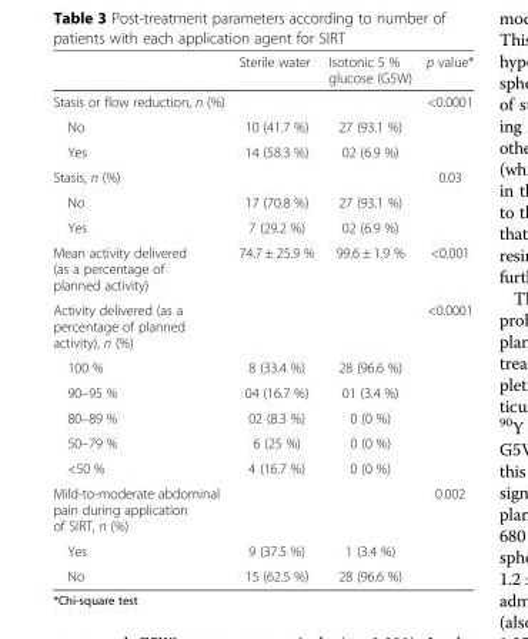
<table><thead><tr><td></td><td>Sterile water</td><td>Isotonic 5 % glucose (G5W)</td><td>p value*</td></tr></thead><tbody><tr><td colspan="3">Stasis or flow reduction, n (%)</td><td rowspan="3">&lt;0.0001</td></tr><tr><td>No</td><td>10 (41.7 %)</td><td>27 (93.1 %)</td></tr><tr><td>Yes</td><td>14 (58.3 %)</td><td>02 (6.9 %)</td></tr><tr><td colspan="3">Stasis, n (%)</td><td rowspan="3">0.03</td></tr><tr><td>No</td><td>17 (70.8 %)</td><td>27 (93.1 %)</td></tr><tr><td>Yes</td><td>7 (29.2 %)</td><td>02 (6.9 %)</td></tr><tr><td>Mean activity delivered (as a percentage of planned activity)</td><td>74.7 ± 25.9 %</td><td>99.6 ± 1.9 %</td><td>&lt;0.001</td></tr><tr><td colspan="3">Activity delivered (as a percentage of planned activity), n (%)</td><td rowspan="6">&lt;0.0001</td></tr><tr><td>100 %</td><td>8 (33.4 %)</td><td>28 (96.6 %)</td></tr><tr><td>90–95 %</td><td>04 (16.7 %)</td><td>01 (3.4 %)</td></tr><tr><td>80–89 %</td><td>02 (8.3 %)</td><td>0 (0 %)</td></tr><tr><td>50–79 %</td><td>6 (25 %)</td><td>0 (0 %)</td></tr><tr><td>&lt;50 %</td><td>4 (16.7 %)</td><td>0 (0 %)</td></tr><tr><td colspan="3">Mild-to-moderate abdominal pain during application of SIRT, n (%)</td><td rowspan="3">0.002</td></tr><tr><td>Yes</td><td>9 (37.5 %)</td><td>1 (3.4 %)</td></tr><tr><td>No</td><td>15 (62.5 %)</td><td>28 (96.6 %)</td></tr></tbody></table>